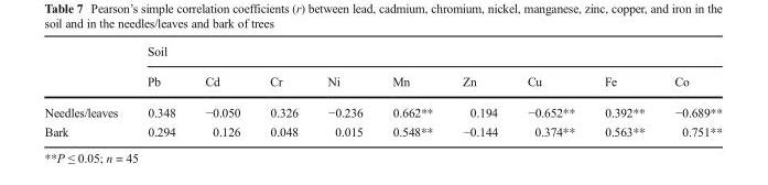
<table><thead><tr><td rowspan="2"></td><td colspan="9">Soil</td></tr><tr><td>Pb</td><td>Cd</td><td>Cr</td><td>Ni</td><td>Mn</td><td>Zn</td><td>Cu</td><td>Fe</td><td>Co</td></tr></thead><tbody><tr><td>Needles/leaves</td><td>0.348</td><td>−0.050</td><td>0.326</td><td>−0.236</td><td>0.662**</td><td>0.194</td><td>−0.652**</td><td>0.392**</td><td>−0.689**</td></tr><tr><td>Bark</td><td>0.294</td><td>0.126</td><td>0.048</td><td>0.015</td><td>0.548**</td><td>−0.144</td><td>0.374**</td><td>0.563**</td><td>0.751**</td></tr></tbody></table>